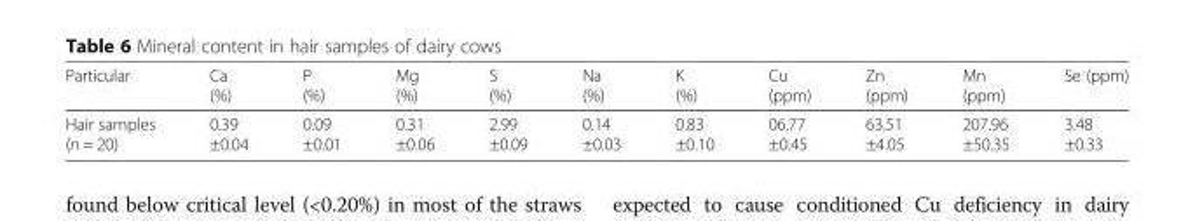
<table><thead><tr><td>Particular</td><td>Ca (%)</td><td>P (%)</td><td>Mg (%)</td><td>S (%)</td><td>Na (%)</td><td>K (%)</td><td>Cu (ppm)</td><td>Zn (ppm)</td><td>Mn (ppm)</td><td>Se (ppm)</td></tr></thead><tbody><tr><td>Hair samples (n = 20)</td><td>0.39 ±0.04</td><td>0.09 ±0.01</td><td>0.31 ±0.06</td><td>2.99 ±0.09</td><td>0.14 ±0.03</td><td>0.83 ±0.10</td><td>06.77 ±0.45</td><td>63.51 ±4.05</td><td>207.96 ±50.35</td><td>3.48 ±0.33</td></tr></tbody></table>